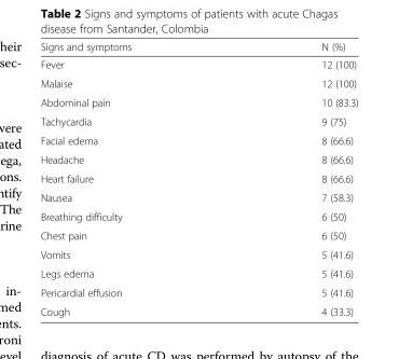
<table><thead><tr><td>Signs and symptoms</td><td>N (%)</td></tr></thead><tbody><tr><td>Fever</td><td>12 (100)</td></tr><tr><td>Malaise</td><td>12 (100)</td></tr><tr><td>Abdominal pain</td><td>10 (83.3)</td></tr><tr><td>Tachycardia</td><td>9 (75)</td></tr><tr><td>Facial edema</td><td>8 (66.6)</td></tr><tr><td>Headache</td><td>8 (66.6)</td></tr><tr><td>Heart failure</td><td>8 (66.6)</td></tr><tr><td>Nausea</td><td>7 (58.3)</td></tr><tr><td>Breathing difficulty</td><td>6 (50)</td></tr><tr><td>Chest pain</td><td>6 (50)</td></tr><tr><td>Vomits</td><td>5 (41.6)</td></tr><tr><td>Legs edema</td><td>5 (41.6)</td></tr><tr><td>Pericardial effusion</td><td>5 (41.6)</td></tr><tr><td>Cough</td><td>4 (33.3)</td></tr></tbody></table>